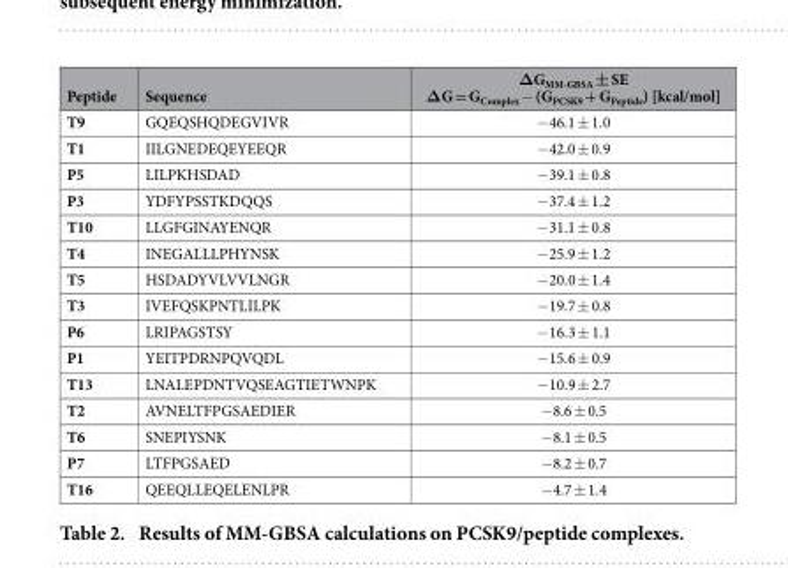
<table><thead><tr><td>Peptide</td><td>Sequence</td><td>ΔG<sub>MM-GBSA</sub> ± SE ΔG = G<sub>Complex</sub> − (G<sub>PCSK9</sub> + G<sub>Peptide</sub>) [kcal/mol]</td></tr></thead><tbody><tr><td>T9</td><td>GQEQSHQDEGVIVR</td><td>− 46.1 ± 1.0</td></tr><tr><td>T1</td><td>IILGNEDEQEYEEQR</td><td>− 42.0 ± 0.9</td></tr><tr><td>P5</td><td>LILPKHSDAD</td><td>− 39.1 ± 0.8</td></tr><tr><td>P3</td><td>YDFYPSSTKDQQS</td><td>− 37.4 ± 1.2</td></tr><tr><td>T10</td><td>LLGFGINAYENQR</td><td>− 31.1 ± 0.8</td></tr><tr><td>T4</td><td>INEGALLLPHYNSK</td><td>− 25.9 ± 1.2</td></tr><tr><td>T5</td><td>HSDADYVLVVLNGR</td><td>− 20.0 ± 1.4</td></tr><tr><td>T3</td><td>IVEFQSKPNTLILPK</td><td>− 19.7 ± 0.8</td></tr><tr><td>P6</td><td>LRIPAGSTSY</td><td>− 16.3 ± 1.1</td></tr><tr><td>P1</td><td>YEITPDRNPQVQDL</td><td>− 15.6 ± 0.9</td></tr><tr><td>T13</td><td>LNALEPDNTVQSEAGTIETWNPK</td><td>− 10.9 ± 2.7</td></tr><tr><td>T2</td><td>AVNELTFPGSAEDIER</td><td>− 8.6 ± 0.5</td></tr><tr><td>T6</td><td>SNEPIYSNK</td><td>− 8.1 ± 0.5</td></tr><tr><td>P7</td><td>LTFPGSAED</td><td>− 8.2 ± 0.7</td></tr><tr><td>T16</td><td>QEEQLLEQELENLPR</td><td>− 4.7 ± 1.4</td></tr></tbody></table>